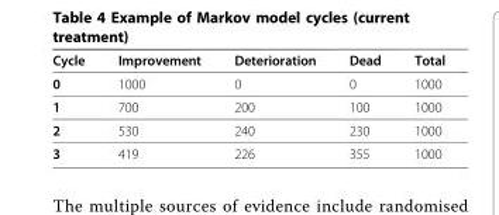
<table><thead><tr><td>Cycle</td><td>Improvement</td><td>Deterioration</td><td>Dead</td><td>Total</td></tr></thead><tbody><tr><td>0</td><td>1000</td><td>0</td><td>0</td><td>1000</td></tr><tr><td>1</td><td>700</td><td>200</td><td>100</td><td>1000</td></tr><tr><td>2</td><td>530</td><td>240</td><td>230</td><td>1000</td></tr><tr><td>3</td><td>419</td><td>226</td><td>355</td><td>1000</td></tr></tbody></table>